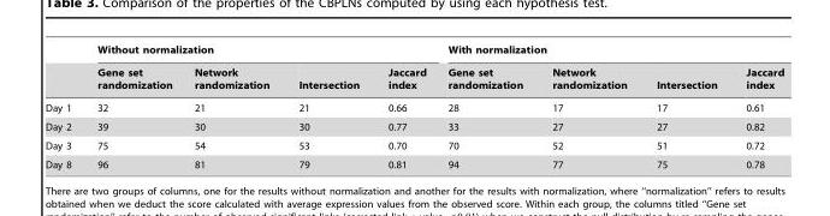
<table><thead><tr><td rowspan="2"></td><td colspan="4">Without normalization</td><td colspan="4">With normalization</td></tr><tr><td>Gene set randomization</td><td>Network randomization</td><td>Intersection</td><td>Jaccard index</td><td>Gene set randomization</td><td>Network randomization</td><td>Intersection</td><td>Jaccard index</td></tr></thead><tbody><tr><td>Day 1</td><td>32</td><td>21</td><td>21</td><td>0.66</td><td>28</td><td>17</td><td>17</td><td>0.61</td></tr><tr><td>Day 2</td><td>39</td><td>30</td><td>30</td><td>0.77</td><td>33</td><td>27</td><td>27</td><td>0.82</td></tr><tr><td>Day 3</td><td>75</td><td>54</td><td>53</td><td>0.70</td><td>70</td><td>52</td><td>51</td><td>0.72</td></tr><tr><td>Day 8</td><td>96</td><td>81</td><td>79</td><td>0.81</td><td>94</td><td>77</td><td>75</td><td>0.78</td></tr></tbody></table>